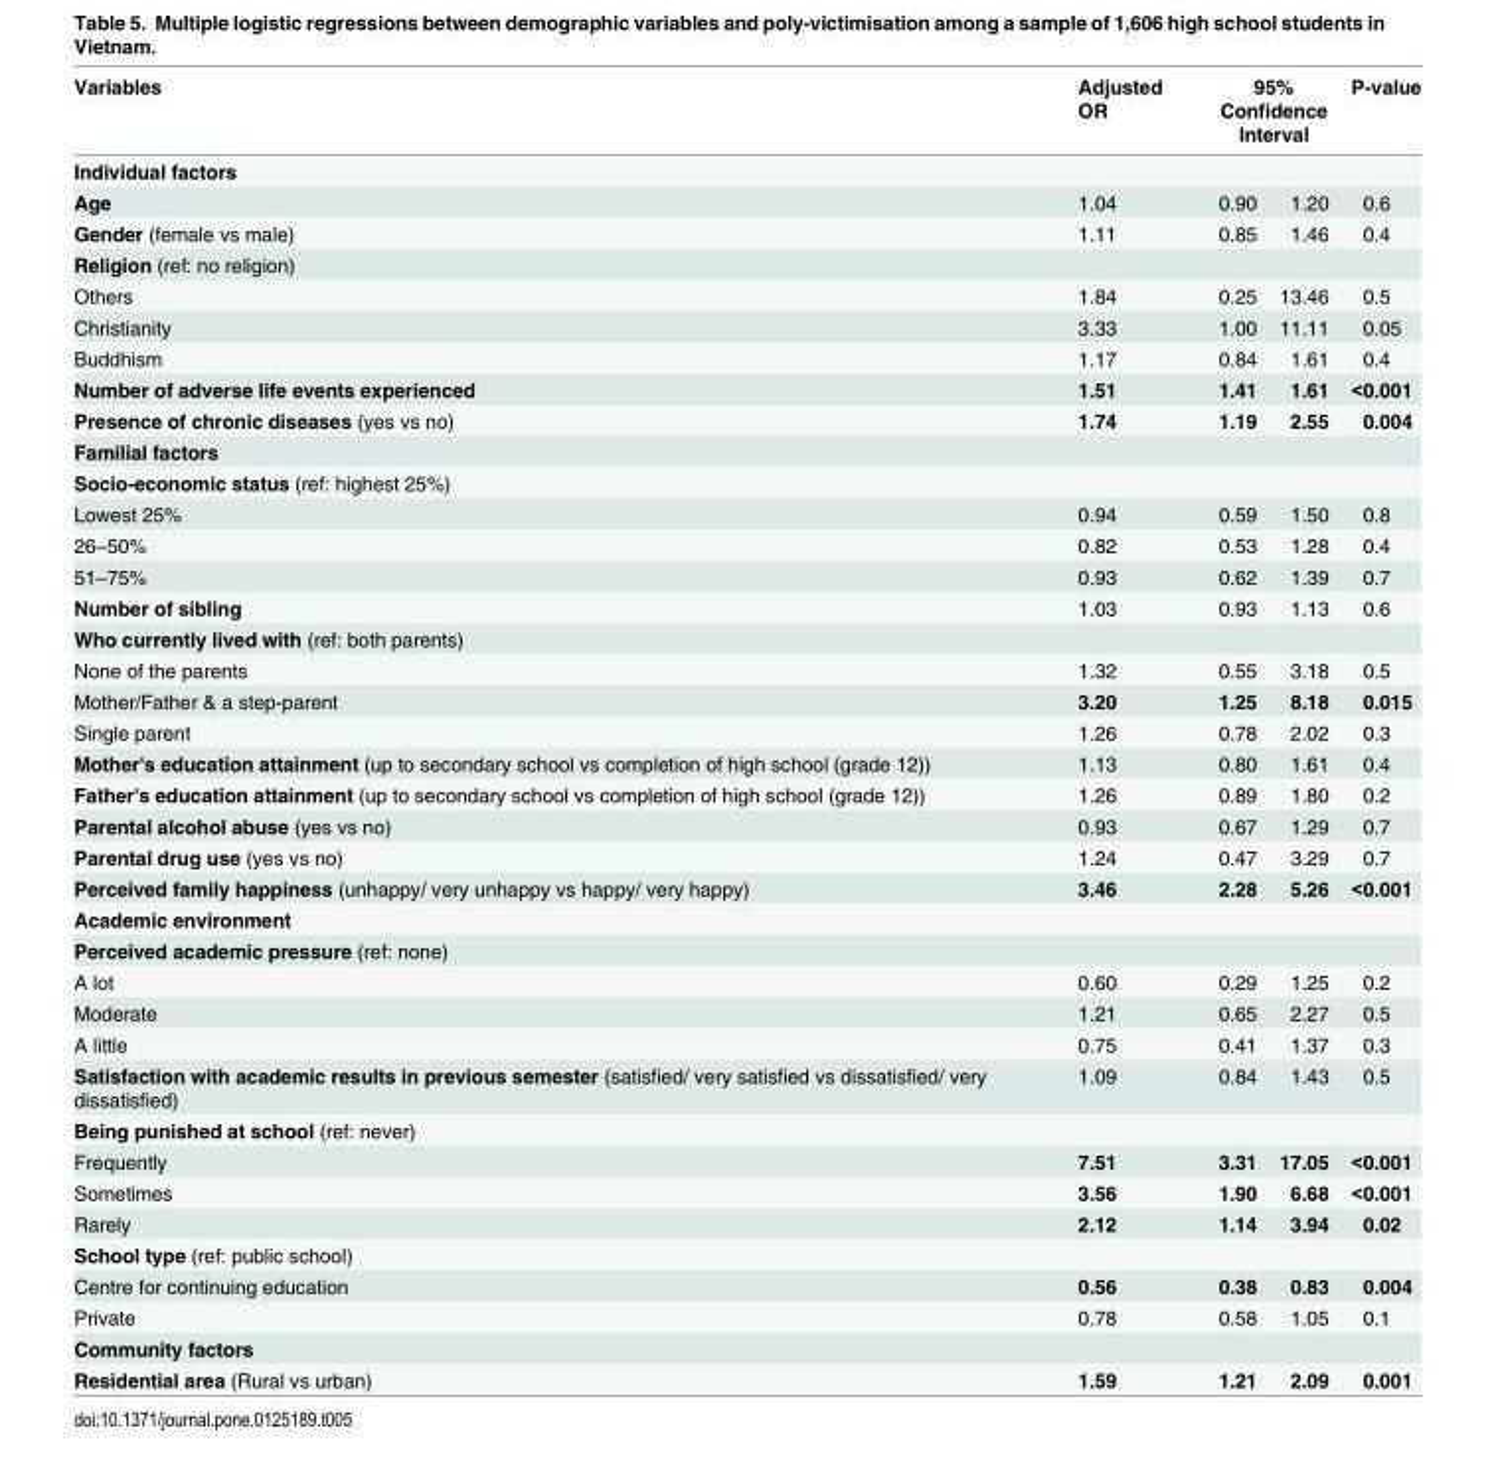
<table><thead><tr><td rowspan="2">Variables Individual factors</td><td rowspan="2">Adjusted OR</td><td colspan="2">95% Confidence Interval</td><td rowspan="2">P-value</td></tr><tr><td></td><td></td></tr></thead><tbody><tr><td>Age</td><td>1.04</td><td>0.90</td><td>1.20</td><td>0.6</td></tr><tr><td>Gender (female vs male)</td><td>1.11</td><td>0.85</td><td>1.46</td><td>0.4</td></tr><tr><td colspan="5">Religion (ref: no religion)</td></tr><tr><td>Others</td><td>1.84</td><td>0.25</td><td>13.46</td><td>0.5</td></tr><tr><td>Christianity</td><td>3.33</td><td>1.00</td><td>11.11</td><td>0.05</td></tr><tr><td>Buddhism</td><td>1.17</td><td>0.84</td><td>1.61</td><td>0.4</td></tr><tr><td>Number of adverse life events experienced</td><td>1.51</td><td>1.41</td><td>1.61</td><td>&lt;0.001</td></tr><tr><td>Presence of chronic diseases (yes vs no)</td><td>1.74</td><td>1.19</td><td>2.55</td><td>0.004</td></tr><tr><td colspan="5">Familial factors</td></tr><tr><td colspan="5">Socio-economic status (ref: highest 25%)</td></tr><tr><td>Lowest 25%</td><td>0.94</td><td>0.59</td><td>1.50</td><td>0.8</td></tr><tr><td>26–50%</td><td>0.82</td><td>0.53</td><td>1.28</td><td>0.4</td></tr><tr><td>51–75%</td><td>0.93</td><td>0.62</td><td>1.39</td><td>0.7</td></tr><tr><td>Number of sibling</td><td>1.03</td><td>0.93</td><td>1.13</td><td>0.6</td></tr><tr><td colspan="5">Who currently lived with (ref: both parents)</td></tr><tr><td>None of the parents</td><td>1.32</td><td>0.55</td><td>3.18</td><td>0.5</td></tr><tr><td>Mother/Father &amp; a step-parent</td><td>3.20</td><td>1.25</td><td>8.18</td><td>0.015</td></tr><tr><td>Single parent</td><td>1.26</td><td>0.78</td><td>2.02</td><td>0.3</td></tr><tr><td>Mother&#x27;s education attainment (up to secondary school vs completion of high school (grade 12))</td><td>1.13</td><td>0.80</td><td>1.61</td><td>0.4</td></tr><tr><td>Father&#x27;s education attainment (up to secondary school vs completion of high school (grade 12))</td><td>1.26</td><td>0.89</td><td>1.80</td><td>0.2</td></tr><tr><td>Parental alcohol abuse (yes vs no)</td><td>0.93</td><td>0.67</td><td>1.29</td><td>0.7</td></tr><tr><td>Parental drug use (yes vs no)</td><td>1.24</td><td>0.47</td><td>3.29</td><td>0.7</td></tr><tr><td>Perceived family happiness (unhappy/ very unhappy vs happy/ very happy)</td><td>3.46</td><td>2.28</td><td>5.26</td><td>&lt;0.001</td></tr><tr><td colspan="5">Academic environment</td></tr><tr><td colspan="5">Perceived academic pressure (ref: none)</td></tr><tr><td>A lot</td><td>0.60</td><td>0.29</td><td>1.25</td><td>0.2</td></tr><tr><td>Moderate</td><td>1.21</td><td>0.65</td><td>2.27</td><td>0.5</td></tr><tr><td>A little</td><td>0.75</td><td>0.41</td><td>1.37</td><td>0.3</td></tr><tr><td>Satisfaction with academic results in previous semester (satisfied/ very satisfied vs dissatisfied/ very dissatisfied)</td><td>1.09</td><td>0.84</td><td>1.43</td><td>0.5</td></tr><tr><td colspan="5">Being punished at school (ref: never)</td></tr><tr><td>Frequently</td><td>7.51</td><td>3.31</td><td>17.05</td><td>&lt;0.001</td></tr><tr><td>Sometimes</td><td>3.56</td><td>1.90</td><td>6.68</td><td>&lt;0.001</td></tr><tr><td>Rarely</td><td>2.12</td><td>1.14</td><td>3.94</td><td>0.02</td></tr><tr><td colspan="5">School type (ref: public school)</td></tr><tr><td>Centre for continuing education</td><td>0.56</td><td>0.38</td><td>0.83</td><td>0.004</td></tr><tr><td>Private</td><td>0.78</td><td>0.58</td><td>1.05</td><td>0.1</td></tr><tr><td colspan="5">Community factors</td></tr><tr><td>Residential area (Rural vs urban)</td><td>1.59</td><td>1.21</td><td>2.09</td><td>0.001</td></tr></tbody></table>